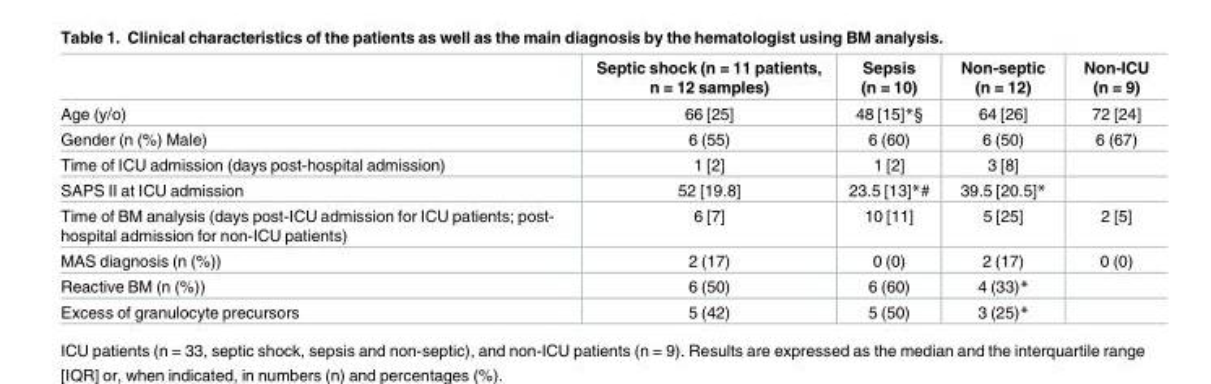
<table><thead><tr><td></td><td>Septic shock (n = 11 patients, n = 12 samples)</td><td>Sepsis (n = 10)</td><td>Non-septic (n = 12)</td><td>Non-ICU (n = 9)</td></tr></thead><tbody><tr><td>Age (y/o)</td><td>66 [25]</td><td>48 [15]*§</td><td>64 [26]</td><td>72 [24]</td></tr><tr><td>Gender (n (%) Male)</td><td>6 (55)</td><td>6 (60)</td><td>6 (50)</td><td>6 (67)</td></tr><tr><td>Time of ICU admission (days post-hospital admission)</td><td>1 [2]</td><td>1 [2]</td><td>3 [8]</td><td></td></tr><tr><td>SAPS II at ICU admission</td><td>52 [19.8]</td><td>23.5 [13]*#</td><td>39.5 [20.5]*</td><td></td></tr><tr><td>Time of BM analysis (days post-ICU admission for ICU patients; post- hospital admission for non-ICU patients)</td><td>6 [7]</td><td>10 [11]</td><td>5 [25]</td><td>2 [5]</td></tr><tr><td>MAS diagnosis (n (%))</td><td>2 (17)</td><td>0 (0)</td><td>2 (17)</td><td>0 (0)</td></tr><tr><td>Reactive BM (n (%))</td><td>6 (50)</td><td>6 (60)</td><td>4 (33)*</td><td></td></tr><tr><td>Excess of granulocyte precursors</td><td>5 (42)</td><td>5 (50)</td><td>3 (25)*</td><td></td></tr></tbody></table>